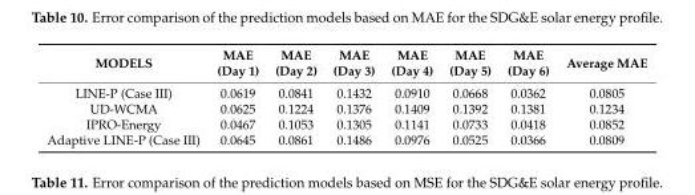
<table><thead><tr><td>MODELS</td><td>MAE (Day 1)</td><td>MAE (Day 2)</td><td>MAE (Day 3)</td><td>MAE (Day 4)</td><td>MAE (Day 5)</td><td>MAE (Day 6)</td><td>Average MAE</td></tr></thead><tbody><tr><td>LINE-P (Case III)</td><td>0.0619</td><td>0.0841</td><td>0.1432</td><td>0.0910</td><td>0.0668</td><td>0.0362</td><td>0.0805</td></tr><tr><td>UD-WCMA</td><td>0.0625</td><td>0.1224</td><td>0.1376</td><td>0.1409</td><td>0.1392</td><td>0.1381</td><td>0.1234</td></tr><tr><td>IPRO-Energy</td><td>0.0467</td><td>0.1053</td><td>0.1305</td><td>0.1141</td><td>0.0733</td><td>0.0418</td><td>0.0852</td></tr><tr><td>Adaptive LINE-P (Case III)</td><td>0.0645</td><td>0.0861</td><td>0.1486</td><td>0.0976</td><td>0.0525</td><td>0.0366</td><td>0.0809</td></tr></tbody></table>